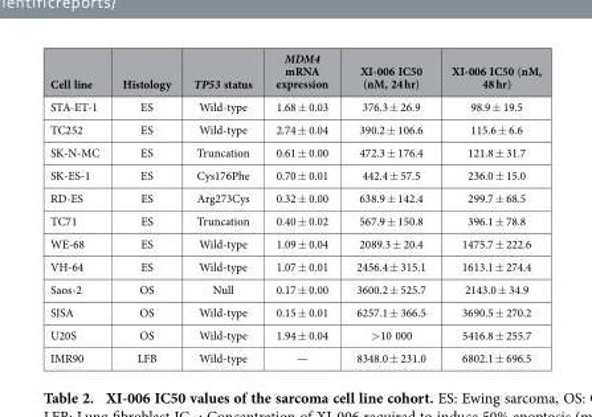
<table><thead><tr><td>Cell line</td><td>Histology</td><td>TP53 status</td><td>MDM4 mRNA expression</td><td>XI-006 IC50 (nM, 24 hr)</td><td>XI-006 IC50 (nM, 48 hr)</td></tr></thead><tbody><tr><td>STA-ET-1</td><td>ES</td><td>Wild-type</td><td>1.68 ± 0.03</td><td>376.3 ± 26.9</td><td>98.9 ± 19.5</td></tr><tr><td>TC252</td><td>ES</td><td>Wild-type</td><td>2.74 ± 0.04</td><td>390.2 ± 106.6</td><td>115.6 ± 6.6</td></tr><tr><td>SK-N-MC</td><td>ES</td><td>Truncation</td><td>0.61 ± 0.00</td><td>472.3 ± 176.4</td><td>121.8 ± 31.7</td></tr><tr><td>SK-ES-1</td><td>ES</td><td>Cys176Phe</td><td>0.70 ± 0.01</td><td>442.4 ± 57.5</td><td>236.0 ± 15.0</td></tr><tr><td>RD-ES</td><td>ES</td><td>Arg273Cys</td><td>0.32 ± 0.00</td><td>638.9 ± 142.4</td><td>299.7 ± 68.5</td></tr><tr><td>TC71</td><td>ES</td><td>Truncation</td><td>0.40 ± 0.02</td><td>567.9 ± 150.8</td><td>396.1 ± 78.8</td></tr><tr><td>WE-68</td><td>ES</td><td>Wild-type</td><td>1.09 ± 0.04</td><td>2089.3 ± 20.4</td><td>1475.7 ± 222.6</td></tr><tr><td>VH-64</td><td>ES</td><td>Wild-type</td><td>1.07 ± 0.01</td><td>2456.4 ± 315.1</td><td>1613.1 ± 274.4</td></tr><tr><td>Saos-2</td><td>OS</td><td>Null</td><td>0.17 ± 0.00</td><td>3600.2 ± 525.7</td><td>2143.0 ± 34.9</td></tr><tr><td>SJSA</td><td>OS</td><td>Wild-type</td><td>0.15 ± 0.01</td><td>6257.1 ± 366.5</td><td>3690.5 ± 270.2</td></tr><tr><td>U20S</td><td>OS</td><td>Wild-type</td><td>1.94 ± 0.04</td><td>&gt; 10 000</td><td>5416.8 ± 255.7</td></tr><tr><td>IMR90</td><td>LFB</td><td>Wild-type</td><td>—</td><td>8348.0 ± 231.0</td><td>6802.1 ± 696.5</td></tr></tbody></table>